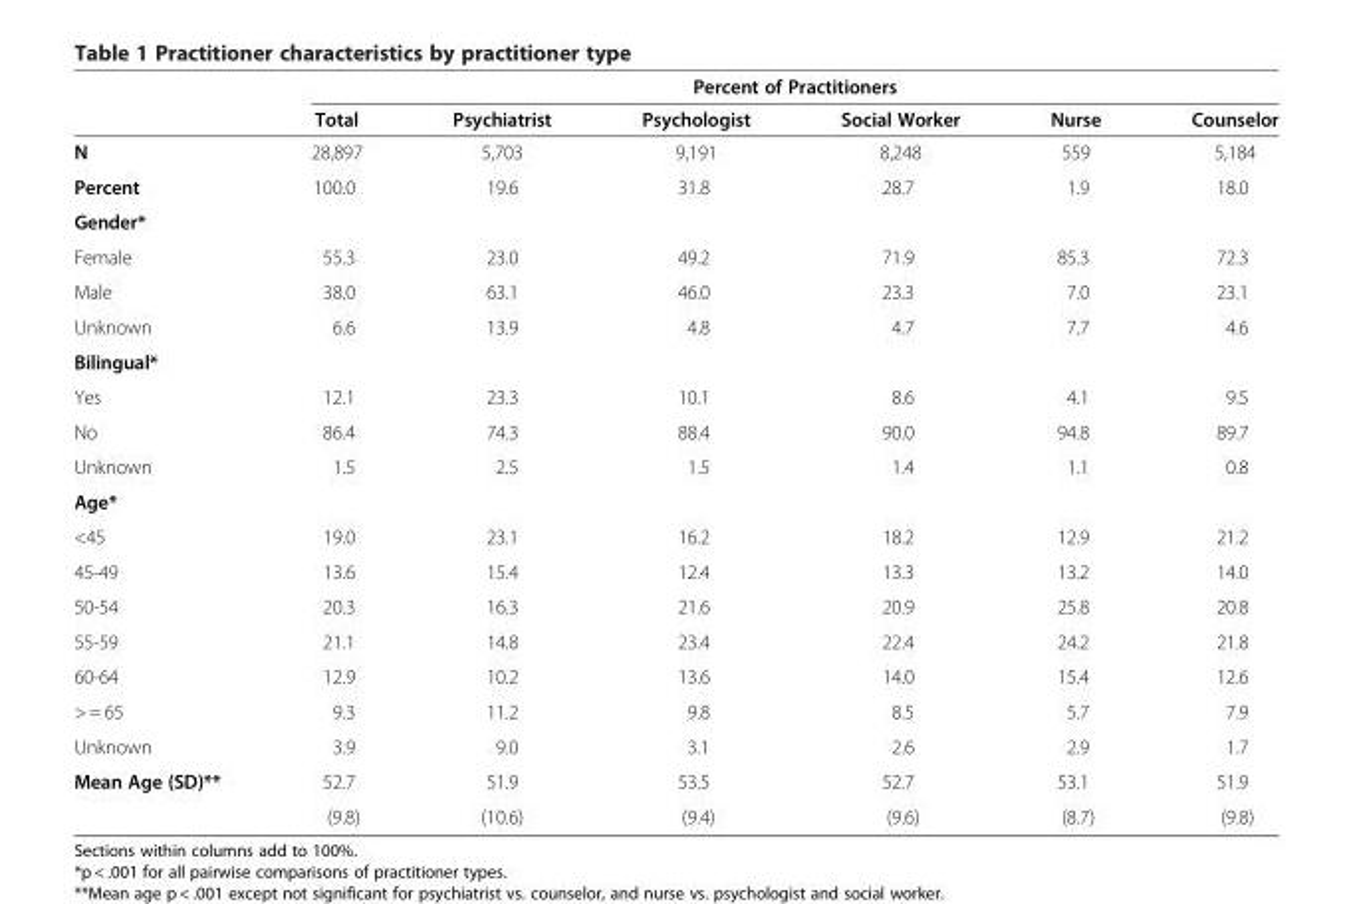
<table><thead><tr><td rowspan="2"></td><td colspan="6">Percent of Practitioners</td></tr><tr><td>Total</td><td>Psychiatrist</td><td>Psychologist</td><td>Social Worker</td><td>Nurse</td><td>Counselor</td></tr></thead><tbody><tr><td>N</td><td>28,897</td><td>5,703</td><td>9,191</td><td>8,248</td><td>559</td><td>5,184</td></tr><tr><td>Percent</td><td>100.0</td><td>19.6</td><td>31.8</td><td>28.7</td><td>1.9</td><td>18.0</td></tr><tr><td colspan="7">Gender*</td></tr><tr><td>Female</td><td>55.3</td><td>23.0</td><td>49.2</td><td>71.9</td><td>85.3</td><td>72.3</td></tr><tr><td>Male</td><td>38.0</td><td>63.1</td><td>46.0</td><td>23.3</td><td>7.0</td><td>23.1</td></tr><tr><td>Unknown</td><td>6.6</td><td>13.9</td><td>4.8</td><td>4.7</td><td>7.7</td><td>4.6</td></tr><tr><td colspan="7">Bilingual*</td></tr><tr><td>Yes</td><td>12.1</td><td>23.3</td><td>10.1</td><td>8.6</td><td>4.1</td><td>9.5</td></tr><tr><td>No</td><td>86.4</td><td>74.3</td><td>88.4</td><td>90.0</td><td>94.8</td><td>89.7</td></tr><tr><td>Unknown</td><td>1.5</td><td>2.5</td><td>1.5</td><td>1.4</td><td>1.1</td><td>0.8</td></tr><tr><td colspan="7">Age*</td></tr><tr><td>&lt;45</td><td>19.0</td><td>23.1</td><td>16.2</td><td>18.2</td><td>12.9</td><td>21.2</td></tr><tr><td>45-49</td><td>13.6</td><td>15.4</td><td>12.4</td><td>13.3</td><td>13.2</td><td>14.0</td></tr><tr><td>50-54</td><td>20.3</td><td>16.3</td><td>21.6</td><td>20.9</td><td>25.8</td><td>20.8</td></tr><tr><td>55-59</td><td>21.1</td><td>14.8</td><td>23.4</td><td>22.4</td><td>24.2</td><td>21.8</td></tr><tr><td>60-64</td><td>12.9</td><td>10.2</td><td>13.6</td><td>14.0</td><td>15.4</td><td>12.6</td></tr><tr><td>&gt; = 65</td><td>9.3</td><td>11.2</td><td>9.8</td><td>8.5</td><td>5.7</td><td>7.9</td></tr><tr><td>Unknown</td><td>3.9</td><td>9.0</td><td>3.1</td><td>2.6</td><td>2.9</td><td>1.7</td></tr><tr><td rowspan="2">Mean Age (SD)**</td><td>52.7</td><td>51.9</td><td>53.5</td><td>52.7</td><td>53.1</td><td>51.9</td></tr><tr><td>(9.8)</td><td>(10.6)</td><td>(9.4)</td><td>(9.6)</td><td>(8.7)</td><td>(9.8)</td></tr></tbody></table>